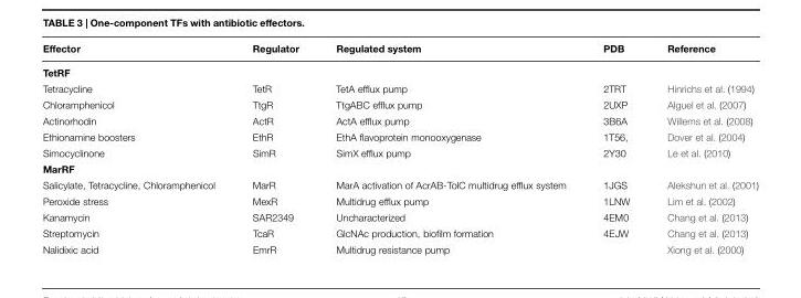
<table><thead><tr><td>Effector</td><td>Regulator</td><td>Regulated system</td><td>PDB</td><td>Reference</td></tr></thead><tbody><tr><td colspan="5">TetRF</td></tr><tr><td>Tetracycline</td><td>TetR</td><td>TetA efflux pump</td><td>2TRT</td><td>Hinrichs et al. (1994)</td></tr><tr><td>Chloramphenicol</td><td>TtgR</td><td>TtgABC efflux pump</td><td>2UXP</td><td>Alguel et al. (2007)</td></tr><tr><td>Actinorhodin</td><td>ActR</td><td>ActA efflux pump</td><td>3B6A</td><td>Willems et al. (2008)</td></tr><tr><td>Ethionamine boosters</td><td>EthR</td><td>EthA flavoprotein monooxygenase</td><td>1T56,</td><td>Dover et al. (2004)</td></tr><tr><td>Simocyclinone</td><td>SimR</td><td>SimX efflux pump</td><td>2Y30</td><td>Le et al. (2010)</td></tr><tr><td colspan="5">MarRF</td></tr><tr><td>Salicylate, Tetracycline, Chloramphenicol</td><td>MarR</td><td>MarA activation of AcrAB-TolC multidrug efflux system</td><td>1JGS</td><td>Alekshun et al. (2001)</td></tr><tr><td>Peroxide stress</td><td>MexR</td><td>Multidrug efflux pump</td><td>1LNW</td><td>Lim et al. (2002)</td></tr><tr><td>Kanamycin</td><td>SAR2349</td><td>Uncharacterized</td><td>4EM0</td><td>Chang et al. (2013)</td></tr><tr><td>Streptomycin</td><td>TcaR</td><td>GlcNAc production, biofilm formation</td><td>4EJW</td><td>Chang et al. (2013)</td></tr><tr><td>Nalidixic acid</td><td>EmrR</td><td>Multidrug resistance pump</td><td></td><td>Xiong et al. (2000)</td></tr></tbody></table>